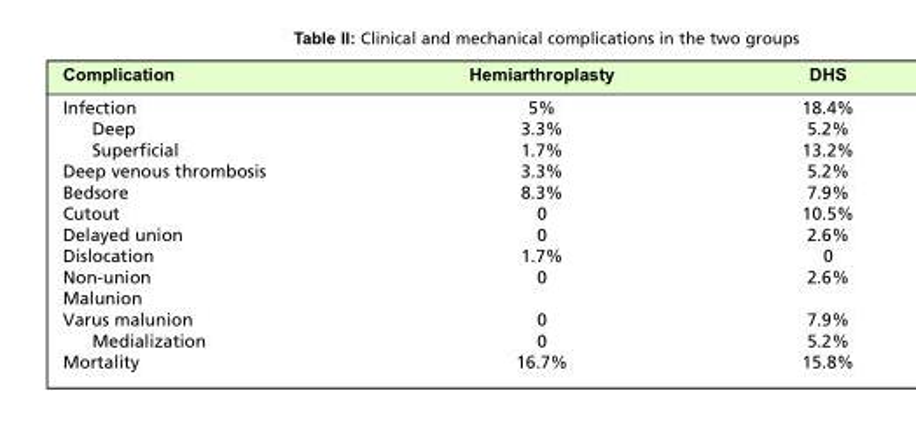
<table><thead><tr><td>Complication</td><td>Hemiarthroplasty</td><td>DHS</td></tr></thead><tbody><tr><td>Infection</td><td>5%</td><td>18.4%</td></tr><tr><td>Deep</td><td>3.3%</td><td>5.2%</td></tr><tr><td>Superficial</td><td>1.7%</td><td>13.2%</td></tr><tr><td>Deep venous thrombosis</td><td>3.3%</td><td>5.2%</td></tr><tr><td>Bedsore</td><td>8.3%</td><td>7.9%</td></tr><tr><td>Cutout</td><td>0</td><td>10.5%</td></tr><tr><td>Delayed union</td><td>0</td><td>2.6%</td></tr><tr><td>Dislocation</td><td>1.7%</td><td>0</td></tr><tr><td>Non-union</td><td>0</td><td>2.6%</td></tr><tr><td colspan="3">Malunion</td></tr><tr><td>Varus malunion</td><td>0</td><td>7.9%</td></tr><tr><td>Medialization</td><td>0</td><td>5.2%</td></tr><tr><td>Mortality</td><td>16.7%</td><td>15.8%</td></tr></tbody></table>